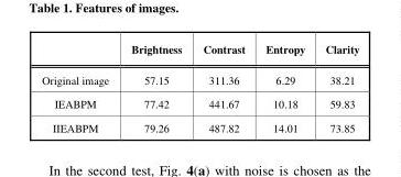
<table><thead><tr><td></td><td>Brightness</td><td>Contrast</td><td>Entropy</td><td>Clarity</td></tr></thead><tbody><tr><td>Original image</td><td>57.15</td><td>311.36</td><td>6.29</td><td>38.21</td></tr><tr><td>IEABPM</td><td>77.42</td><td>441.67</td><td>10.18</td><td>59.83</td></tr><tr><td>IIEABPM</td><td>79.26</td><td>487.82</td><td>14.01</td><td>73.85</td></tr></tbody></table>